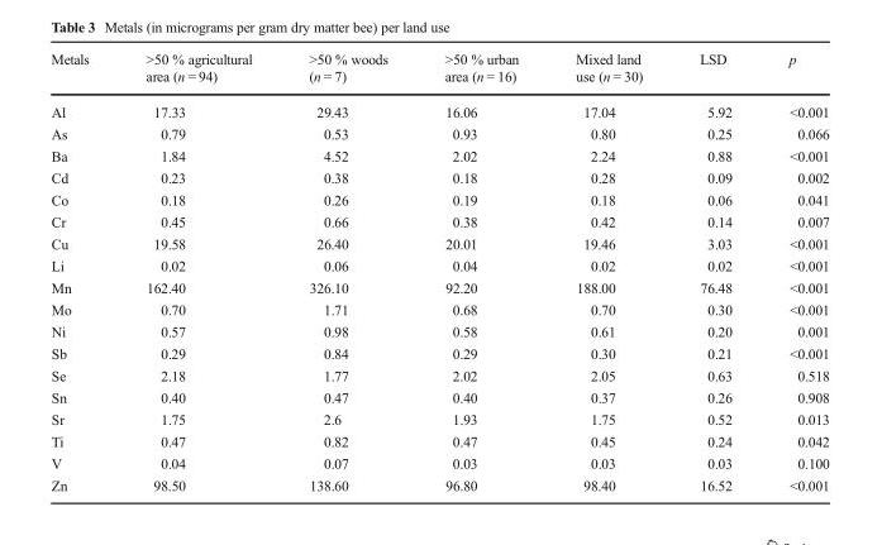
<table><thead><tr><td>Metals</td><td>&gt;50 % agricultural area (n = 94)</td><td>&gt;50 % woods (n = 7)</td><td>&gt;50 % urban area (n = 16)</td><td>Mixed land use (n = 30)</td><td>LSD</td><td>p</td></tr></thead><tbody><tr><td>Al</td><td>17.33</td><td>29.43</td><td>16.06</td><td>17.04</td><td>5.92</td><td>&lt;0.001</td></tr><tr><td>As</td><td>0.79</td><td>0.53</td><td>0.93</td><td>0.80</td><td>0.25</td><td>0.066</td></tr><tr><td>Ba</td><td>1.84</td><td>4.52</td><td>2.02</td><td>2.24</td><td>0.88</td><td>&lt;0.001</td></tr><tr><td>Cd</td><td>0.23</td><td>0.38</td><td>0.18</td><td>0.28</td><td>0.09</td><td>0.002</td></tr><tr><td>Co</td><td>0.18</td><td>0.26</td><td>0.19</td><td>0.18</td><td>0.06</td><td>0.041</td></tr><tr><td>Cr</td><td>0.45</td><td>0.66</td><td>0.38</td><td>0.42</td><td>0.14</td><td>0.007</td></tr><tr><td>Cu</td><td>19.58</td><td>26.40</td><td>20.01</td><td>19.46</td><td>3.03</td><td>&lt;0.001</td></tr><tr><td>Li</td><td>0.02</td><td>0.06</td><td>0.04</td><td>0.02</td><td>0.02</td><td>&lt;0.001</td></tr><tr><td>Mn</td><td>162.40</td><td>326.10</td><td>92.20</td><td>188.00</td><td>76.48</td><td>&lt;0.001</td></tr><tr><td>Mo</td><td>0.70</td><td>1.71</td><td>0.68</td><td>0.70</td><td>0.30</td><td>&lt;0.001</td></tr><tr><td>Ni</td><td>0.57</td><td>0.98</td><td>0.58</td><td>0.61</td><td>0.20</td><td>0.001</td></tr><tr><td>Sb</td><td>0.29</td><td>0.84</td><td>0.29</td><td>0.30</td><td>0.21</td><td>&lt;0.001</td></tr><tr><td>Se</td><td>2.18</td><td>1.77</td><td>2.02</td><td>2.05</td><td>0.63</td><td>0.518</td></tr><tr><td>Sn</td><td>0.40</td><td>0.47</td><td>0.40</td><td>0.37</td><td>0.26</td><td>0.908</td></tr><tr><td>Sr</td><td>1.75</td><td>2.6</td><td>1.93</td><td>1.75</td><td>0.52</td><td>0.013</td></tr><tr><td>Ti</td><td>0.47</td><td>0.82</td><td>0.47</td><td>0.45</td><td>0.24</td><td>0.042</td></tr><tr><td>V</td><td>0.04</td><td>0.07</td><td>0.03</td><td>0.03</td><td>0.03</td><td>0.100</td></tr><tr><td>Zn</td><td>98.50</td><td>138.60</td><td>96.80</td><td>98.40</td><td>16.52</td><td>&lt;0.001</td></tr></tbody></table>